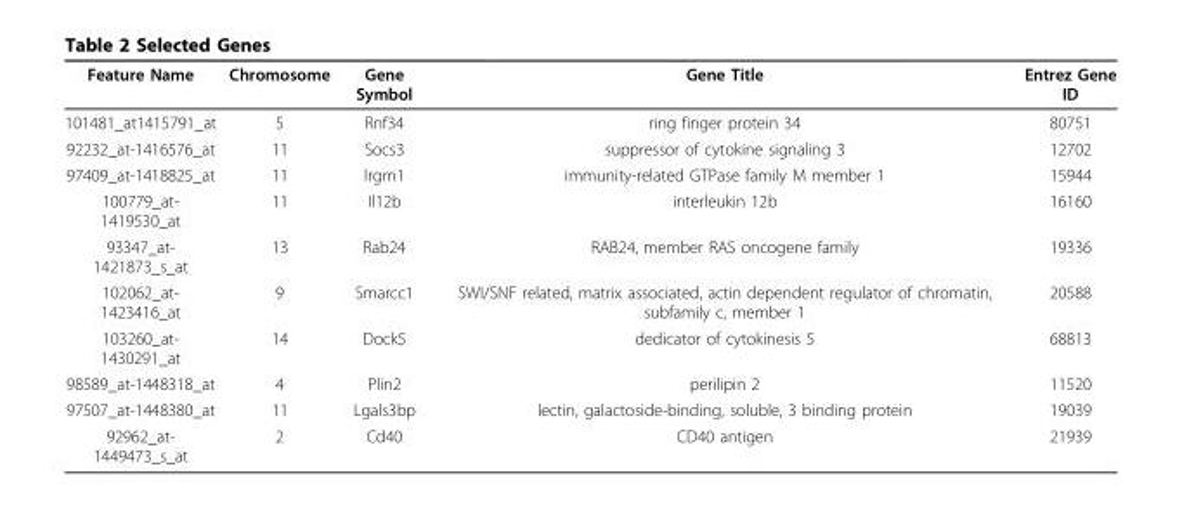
<table><thead><tr><td>Feature Name</td><td>Chromosome</td><td>Gene Symbol</td><td>Gene Title</td><td>Entrez Gene ID</td></tr></thead><tbody><tr><td>101481_at1415791_at</td><td>5</td><td>Rnf34</td><td>ring finger protein 34</td><td>80751</td></tr><tr><td>92232_at-1416576_at</td><td>11</td><td>Socs3</td><td>suppressor of cytokine signaling 3</td><td>12702</td></tr><tr><td>97409_at-1418825_at</td><td>11</td><td>Irgm1</td><td>immunity-related GTPase family M member 1</td><td>15944</td></tr><tr><td>100779_at- 1419530_at</td><td>11</td><td>Il12b</td><td>interleukin 12b</td><td>16160</td></tr><tr><td>93347_at- 1421873_s_at</td><td>13</td><td>Rab24</td><td>RAB24, member RAS oncogene family</td><td>19336</td></tr><tr><td>102062_at- 1423416_at</td><td>9</td><td>Smarcc1</td><td>SWI/SNF related, matrix associated, actin dependent regulator of chromatin, subfamily c, member 1</td><td>20588</td></tr><tr><td>103260_at- 1430291_at</td><td>14</td><td>Dock5</td><td>dedicator of cytokinesis 5</td><td>68813</td></tr><tr><td>98589_at-1448318_at</td><td>4</td><td>Plin2</td><td>perilipin 2</td><td>11520</td></tr><tr><td>97507_at-1448380_at</td><td>11</td><td>Lgals3bp</td><td>lectin, galactoside-binding, soluble, 3 binding protein</td><td>19039</td></tr><tr><td>92962_at- 1449473_s_at</td><td>2</td><td>Cd40</td><td>CD40 antigen</td><td>21939</td></tr></tbody></table>